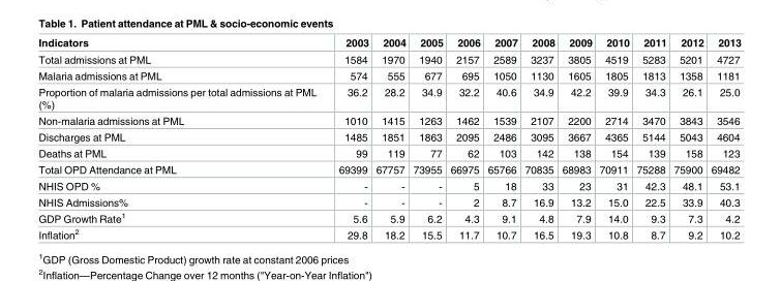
<table><thead><tr><td>Indicators</td><td>2003</td><td>2004</td><td>2005</td><td>2006</td><td>2007</td><td>2008</td><td>2009</td><td>2010</td><td>2011</td><td>2012</td><td>2013</td></tr></thead><tbody><tr><td>Total admissions at PML</td><td>1584</td><td>1970</td><td>1940</td><td>2157</td><td>2589</td><td>3237</td><td>3805</td><td>4519</td><td>5283</td><td>5201</td><td>4727</td></tr><tr><td>Malaria admissions at PML</td><td>574</td><td>555</td><td>677</td><td>695</td><td>1050</td><td>1130</td><td>1605</td><td>1805</td><td>1813</td><td>1358</td><td>1181</td></tr><tr><td>Proportion of malaria admissions per total admissions at PML (%)</td><td>36.2</td><td>28.2</td><td>34.9</td><td>32.2</td><td>40.6</td><td>34.9</td><td>42.2</td><td>39.9</td><td>34.3</td><td>26.1</td><td>25.0</td></tr><tr><td>Non-malaria admissions at PML</td><td>1010</td><td>1415</td><td>1263</td><td>1462</td><td>1539</td><td>2107</td><td>2200</td><td>2714</td><td>3470</td><td>3843</td><td>3546</td></tr><tr><td>Discharges at PML</td><td>1485</td><td>1851</td><td>1863</td><td>2095</td><td>2486</td><td>3095</td><td>3667</td><td>4365</td><td>5144</td><td>5043</td><td>4604</td></tr><tr><td>Deaths at PML</td><td>99</td><td>119</td><td>77</td><td>62</td><td>103</td><td>142</td><td>138</td><td>154</td><td>139</td><td>158</td><td>123</td></tr><tr><td>Total OPD Attendance at PML</td><td>69399</td><td>67757</td><td>73955</td><td>66975</td><td>65766</td><td>70835</td><td>68983</td><td>70911</td><td>75288</td><td>75900</td><td>69482</td></tr><tr><td>NHIS OPD %</td><td>-</td><td>-</td><td>-</td><td>5</td><td>18</td><td>33</td><td>23</td><td>31</td><td>42.3</td><td>48.1</td><td>53.1</td></tr><tr><td>NHIS Admissions%</td><td>-</td><td>-</td><td>-</td><td>2</td><td>8.7</td><td>16.9</td><td>13.2</td><td>15.0</td><td>22.5</td><td>33.9</td><td>40.3</td></tr><tr><td>GDP Growth Rate<sup>1</sup></td><td>5.6</td><td>5.9</td><td>6.2</td><td>4.3</td><td>9.1</td><td>4.8</td><td>7.9</td><td>14.0</td><td>9.3</td><td>7.3</td><td>4.2</td></tr><tr><td>Inflation<sup>2</sup></td><td>29.8</td><td>18.2</td><td>15.5</td><td>11.7</td><td>10.7</td><td>16.5</td><td>19.3</td><td>10.8</td><td>8.7</td><td>9.2</td><td>10.2</td></tr></tbody></table>